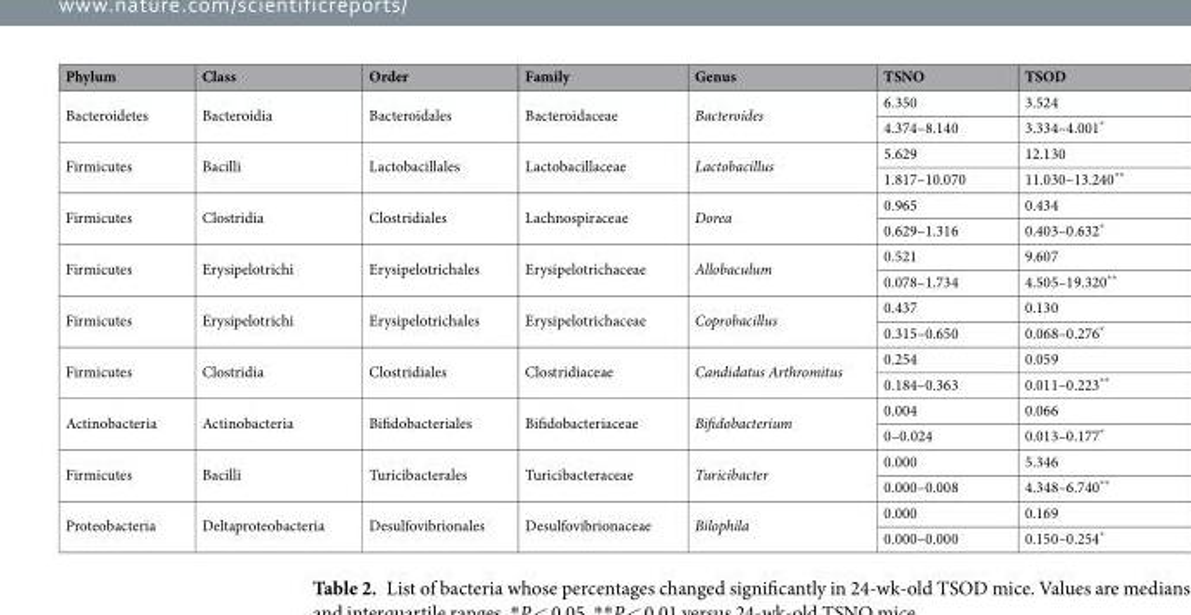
<table><thead><tr><td>Phylum</td><td>Class</td><td>Order</td><td>Family</td><td>Genus</td><td>TSNO</td><td>TSOD</td></tr></thead><tbody><tr><td rowspan="2">Bacteroidetes</td><td rowspan="2">Bacteroidia</td><td rowspan="2">Bacteroidales</td><td rowspan="2">Bacteroidaceae</td><td rowspan="2">Bacteroides</td><td>6.350</td><td>3.524</td></tr><tr><td>4.374–8.140</td><td>3.334–4.001*</td></tr><tr><td rowspan="2">Firmicutes</td><td rowspan="2">Bacilli</td><td rowspan="2">Lactobacillales</td><td rowspan="2">Lactobacillaceae</td><td rowspan="2">Lactobacillus</td><td>5.629</td><td>12.130</td></tr><tr><td>1.817–10.070</td><td>11.030–13.240**</td></tr><tr><td rowspan="2">Firmicutes</td><td rowspan="2">Clostridia</td><td rowspan="2">Clostridiales</td><td rowspan="2">Lachnospiraceae</td><td rowspan="2">Dorea</td><td>0.965</td><td>0.434</td></tr><tr><td>0.629–1.316</td><td>0.403–0.632*</td></tr><tr><td rowspan="2">Firmicutes</td><td rowspan="2">Erysipelotrichi</td><td rowspan="2">Erysipelotrichales</td><td rowspan="2">Erysipelotrichaceae</td><td rowspan="2">Allobaculum</td><td>0.521</td><td>9.607</td></tr><tr><td>0.078–1.734</td><td>4.505–19.320**</td></tr><tr><td rowspan="2">Firmicutes</td><td rowspan="2">Erysipelotrichi</td><td rowspan="2">Erysipelotrichales</td><td rowspan="2">Erysipelotrichaceae</td><td rowspan="2">Coprobacillus</td><td>0.437</td><td>0.130</td></tr><tr><td>0.315–0.650</td><td>0.068–0.276*</td></tr><tr><td rowspan="2">Firmicutes</td><td rowspan="2">Clostridia</td><td rowspan="2">Clostridiales</td><td rowspan="2">Clostridiaceae</td><td rowspan="2">Candidatus Arthromitus</td><td>0.254</td><td>0.059</td></tr><tr><td>0.184–0.363</td><td>0.011–0.223**</td></tr><tr><td rowspan="2">Actinobacteria</td><td rowspan="2">Actinobacteria</td><td rowspan="2">Bifidobacteriales</td><td rowspan="2">Bifidobacteriaceae</td><td rowspan="2">Bifidobacterium</td><td>0.004</td><td>0.066</td></tr><tr><td>0–0.024</td><td>0.013–0.177*</td></tr><tr><td rowspan="2">Firmicutes</td><td rowspan="2">Bacilli</td><td rowspan="2">Turicibacterales</td><td rowspan="2">Turicibacteraceae</td><td rowspan="2">Turicibacter</td><td>0.000</td><td>5.346</td></tr><tr><td>0.000–0.008</td><td>4.348–6.740**</td></tr><tr><td rowspan="2">Proteobacteria</td><td rowspan="2">Deltaproteobacteria</td><td rowspan="2">Desulfovibrionales</td><td rowspan="2">Desulfovibrionaceae</td><td rowspan="2">Bilophila</td><td>0.000</td><td>0.169</td></tr><tr><td>0.000–0.000</td><td>0.150–0.254*</td></tr></tbody></table>